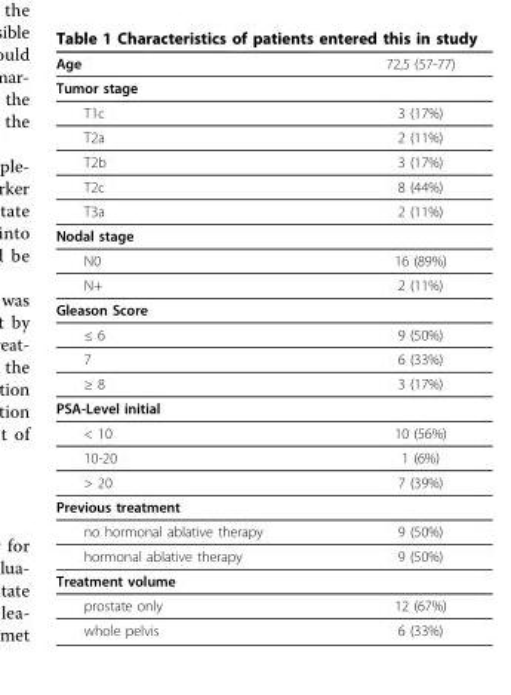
<table><thead><tr><td>Age</td><td>72,5 (57-77)</td></tr></thead><tbody><tr><td colspan="2">Tumor stage</td></tr><tr><td>T1c</td><td>3 (17%)</td></tr><tr><td>T2a</td><td>2 (11%)</td></tr><tr><td>T2b</td><td>3 (17%)</td></tr><tr><td>T2c</td><td>8 (44%)</td></tr><tr><td>T3a</td><td>2 (11%)</td></tr><tr><td colspan="2">Nodal stage</td></tr><tr><td>N0</td><td>16 (89%)</td></tr><tr><td>N+</td><td>2 (11%)</td></tr><tr><td colspan="2">Gleason Score</td></tr><tr><td>≤ 6</td><td>9 (50%)</td></tr><tr><td>7</td><td>6 (33%)</td></tr><tr><td>≥ 8</td><td>3 (17%)</td></tr><tr><td colspan="2">PSA-Level initial</td></tr><tr><td>&lt; 10</td><td>10 (56%)</td></tr><tr><td>10-20</td><td>1 (6%)</td></tr><tr><td>&gt; 20</td><td>7 (39%)</td></tr><tr><td colspan="2">Previous treatment</td></tr><tr><td>no hormonal ablative therapy</td><td>9 (50%)</td></tr><tr><td>hormonal ablative therapy</td><td>9 (50%)</td></tr><tr><td colspan="2">Treatment volume</td></tr><tr><td>prostate only</td><td>12 (67%)</td></tr><tr><td>whole pelvis</td><td>6 (33%)</td></tr></tbody></table>